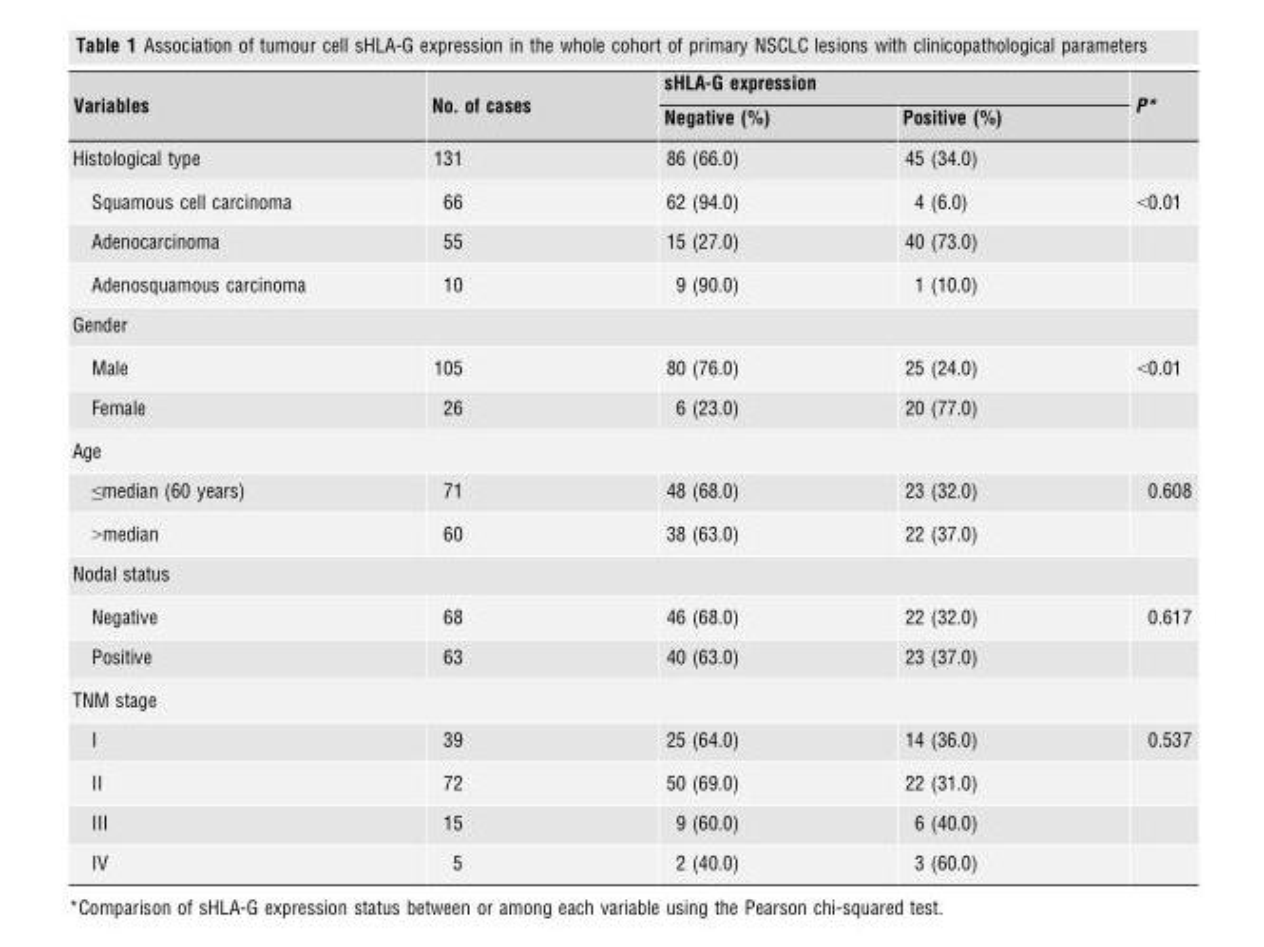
<table><thead><tr><td rowspan="2">Variables</td><td rowspan="2">No. of cases</td><td colspan="2">sHLA-G expression</td><td rowspan="2">P*</td></tr><tr><td>Negative (%)</td><td>Positive (%)</td></tr></thead><tbody><tr><td>Histological type</td><td>131</td><td>86 (66.0)</td><td>45 (34.0)</td><td></td></tr><tr><td>Squamous cell carcinoma</td><td>66</td><td>62 (94.0)</td><td>4 (6.0)</td><td>&lt;0.01</td></tr><tr><td>Adenocarcinoma</td><td>55</td><td>15 (27.0)</td><td>40 (73.0)</td><td></td></tr><tr><td>Adenosquamous carcinoma</td><td>10</td><td>9 (90.0)</td><td>1 (10.0)</td><td></td></tr><tr><td colspan="5">Gender</td></tr><tr><td>Male</td><td>105</td><td>80 (76.0)</td><td>25 (24.0)</td><td>&lt;0.01</td></tr><tr><td>Female</td><td>26</td><td>6 (23.0)</td><td>20 (77.0)</td><td></td></tr><tr><td colspan="5">Age</td></tr><tr><td>≤median (60 years)</td><td>71</td><td>48 (68.0)</td><td>23 (32.0)</td><td>0.608</td></tr><tr><td>&gt;median</td><td>60</td><td>38 (63.0)</td><td>22 (37.0)</td><td></td></tr><tr><td colspan="5">Nodal status</td></tr><tr><td>Negative</td><td>68</td><td>46 (68.0)</td><td>22 (32.0)</td><td>0.617</td></tr><tr><td>Positive</td><td>63</td><td>40 (63.0)</td><td>23 (37.0)</td><td></td></tr><tr><td colspan="5">TNM stage</td></tr><tr><td>I</td><td>39</td><td>25 (64.0)</td><td>14 (36.0)</td><td>0.537</td></tr><tr><td>II</td><td>72</td><td>50 (69.0)</td><td>22 (31.0)</td><td></td></tr><tr><td>III</td><td>15</td><td>9 (60.0)</td><td>6 (40.0)</td><td></td></tr><tr><td>IV</td><td>5</td><td>2 (40.0)</td><td>3 (60.0)</td><td></td></tr></tbody></table>